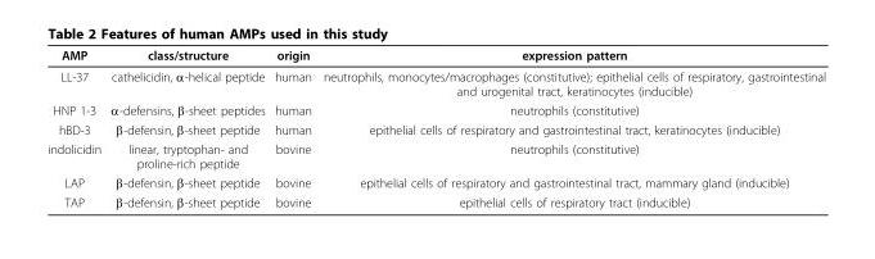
<table><thead><tr><td>AMP</td><td>class/structure</td><td>origin</td><td>expression pattern</td></tr></thead><tbody><tr><td>LL-37</td><td>cathelicidin, α-helical peptide</td><td>human</td><td>neutrophils, monocytes/macrophages (constitutive); epithelial cells of respiratory, gastrointestinal and urogenital tract, keratinocytes (inducible)</td></tr><tr><td>HNP 1-3</td><td>α-defensins, β-sheet peptides</td><td>human</td><td>neutrophils (constitutive)</td></tr><tr><td>hBD-3</td><td>β-defensin, β-sheet peptide</td><td>human</td><td>epithelial cells of respiratory and gastrointestinal tract, keratinocytes (inducible)</td></tr><tr><td>indolicidin</td><td>linear, tryptophan- and proline-rich peptide</td><td>bovine</td><td>neutrophils (constitutive)</td></tr><tr><td>LAP</td><td>β-defensin, β-sheet peptide</td><td>bovine</td><td>epithelial cells of respiratory and gastrointestinal tract, mammary gland (inducible)</td></tr><tr><td>TAP</td><td>β-defensin, β-sheet peptide</td><td>bovine</td><td>epithelial cells of respiratory tract (inducible)</td></tr></tbody></table>